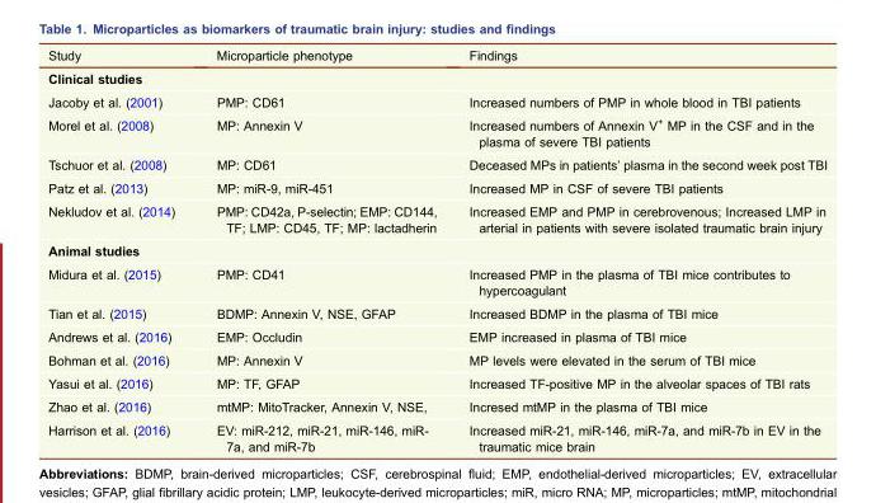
<table><thead><tr><td>Study</td><td>Microparticle phenotype</td><td>Findings</td></tr></thead><tbody><tr><td colspan="3">Clinical studies</td></tr><tr><td>Jacoby et al. (2001)</td><td>PMP: CD61</td><td>Increased numbers of PMP in whole blood in TBI patients</td></tr><tr><td>Morel et al. (2008)</td><td>MP: Annexin V</td><td>Increased numbers of Annexin V<sup>+</sup> MP in the CSF and in the plasma of severe TBI patients</td></tr><tr><td>Tschuor et al. (2008)</td><td>MP: CD61</td><td>Deceased MPs in patients’ plasma in the second week post TBI</td></tr><tr><td>Patz et al. (2013)</td><td>MP: miR-9, miR-451</td><td>Increased MP in CSF of severe TBI patients</td></tr><tr><td>Nekludov et al. (2014)</td><td>PMP: CD42a, P-selectin; EMP: CD144, TF; LMP: CD45, TF; MP: lactadherin</td><td>Increased EMP and PMP in cerebrovenous; Increased LMP in arterial in patients with severe isolated traumatic brain injury</td></tr><tr><td colspan="3">Animal studies</td></tr><tr><td>Midura et al. (2015)</td><td>PMP: CD41</td><td>Increased PMP in the plasma of TBI mice contributes to hypercoagulant</td></tr><tr><td>Tian et al. (2015)</td><td>BDMP: Annexin V, NSE, GFAP</td><td>Increased BDMP in the plasma of TBI mice</td></tr><tr><td>Andrews et al. (2016)</td><td>EMP: Occludin</td><td>EMP increased in plasma of TBI mice</td></tr><tr><td>Bohman et al. (2016)</td><td>MP: Annexin V</td><td>MP levels were elevated in the serum of TBI mice</td></tr><tr><td>Yasui et al. (2016)</td><td>MP: TF, GFAP</td><td>Increased TF-positive MP in the alveolar spaces of TBI rats</td></tr><tr><td>Zhao et al. (2016)</td><td>mtMP: MitoTracker, Annexin V, NSE,</td><td>Incresed mtMP in the plasma of TBI mice</td></tr><tr><td>Harrison et al. (2016)</td><td>EV: miR-212, miR-21, miR-146, miR- 7a, and miR-7b</td><td>Increased miR-21, miR-146, miR-7a, and miR-7b in EV in the traumatic mice brain</td></tr></tbody></table>